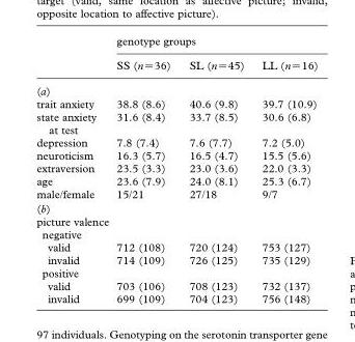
<table><thead><tr><td rowspan="2"></td><td colspan="3">genotype groups</td></tr><tr><td>SS (n=36)</td><td>SL (n=45)</td><td>LL (n=16)</td></tr></thead><tbody><tr><td colspan="4">(a)</td></tr><tr><td>trait anxiety</td><td>38.8 (8.6)</td><td>40.6 (9.8)</td><td>39.7 (10.9)</td></tr><tr><td>state anxiety at test</td><td>31.6 (8.4)</td><td>33.7 (8.5)</td><td>30.6 (6.8)</td></tr><tr><td>depression</td><td>7.8 (7.4)</td><td>7.6 (7.7)</td><td>7.2 (5.0)</td></tr><tr><td>neuroticism</td><td>16.3 (5.7)</td><td>16.5 (4.7)</td><td>15.5 (5.6)</td></tr><tr><td>extraversion</td><td>23.5 (3.3)</td><td>23.0 (3.6)</td><td>22.0 (3.3)</td></tr><tr><td>age</td><td>23.6 (7.9)</td><td>24.0 (8.1)</td><td>25.3 (6.7)</td></tr><tr><td>male/female</td><td>15/21</td><td>27/18</td><td>9/7</td></tr><tr><td colspan="4">(b)</td></tr><tr><td colspan="4">picture valence</td></tr><tr><td colspan="4">negative</td></tr><tr><td>valid</td><td>712 (108)</td><td>720 (124)</td><td>753 (127)</td></tr><tr><td>invalid</td><td>714 (109)</td><td>726 (125)</td><td>735 (129)</td></tr><tr><td colspan="4">positive</td></tr><tr><td>valid</td><td>703 (106)</td><td>708 (123)</td><td>732 (137)</td></tr><tr><td>invalid</td><td>699 (109)</td><td>704 (123)</td><td>756 (148)</td></tr></tbody></table>